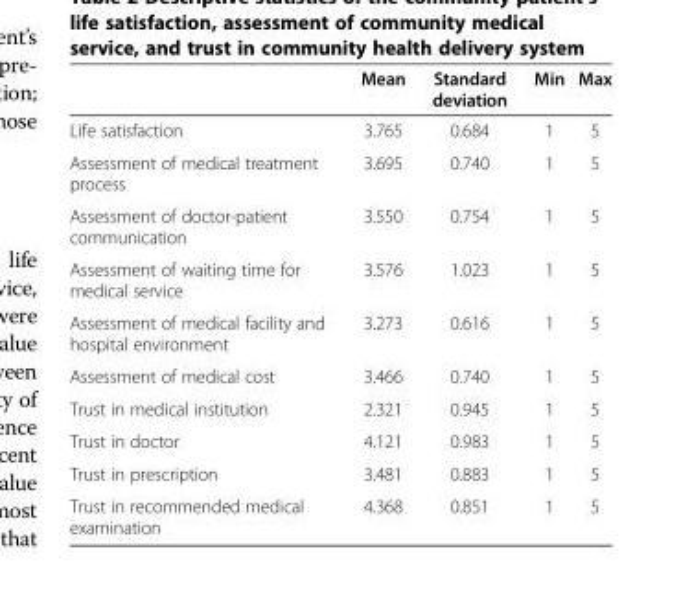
<table><thead><tr><td></td><td>Mean</td><td>Standard deviation</td><td>Min</td><td>Max</td></tr></thead><tbody><tr><td>Life satisfaction</td><td>3.765</td><td>0.684</td><td>1</td><td>5</td></tr><tr><td>Assessment of medical treatment process</td><td>3.695</td><td>0.740</td><td>1</td><td>5</td></tr><tr><td>Assessment of doctor-patient communication</td><td>3.550</td><td>0.754</td><td>1</td><td>5</td></tr><tr><td>Assessment of waiting time for medical service</td><td>3.576</td><td>1.023</td><td>1</td><td>5</td></tr><tr><td>Assessment of medical facility and hospital environment</td><td>3.273</td><td>0.616</td><td>1</td><td>5</td></tr><tr><td>Assessment of medical cost</td><td>3.466</td><td>0.740</td><td>1</td><td>5</td></tr><tr><td>Trust in medical institution</td><td>2.321</td><td>0.945</td><td>1</td><td>5</td></tr><tr><td>Trust in doctor</td><td>4.121</td><td>0.983</td><td>1</td><td>5</td></tr><tr><td>Trust in prescription</td><td>3.481</td><td>0.883</td><td>1</td><td>5</td></tr><tr><td>Trust in recommended medical examination</td><td>4.368</td><td>0.851</td><td>1</td><td>5</td></tr></tbody></table>